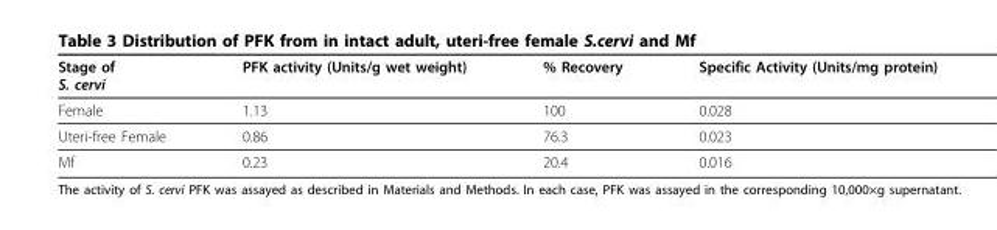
<table><thead><tr><td>Stage of S. cervi</td><td>PFK activity (Units/g wet weight)</td><td>% Recovery</td><td>Specific Activity (Units/mg protein)</td></tr></thead><tbody><tr><td>Female</td><td>1.13</td><td>100</td><td>0.028</td></tr><tr><td>Uteri-free Female</td><td>0.86</td><td>76.3</td><td>0.023</td></tr><tr><td>Mf</td><td>0.23</td><td>20.4</td><td>0.016</td></tr></tbody></table>